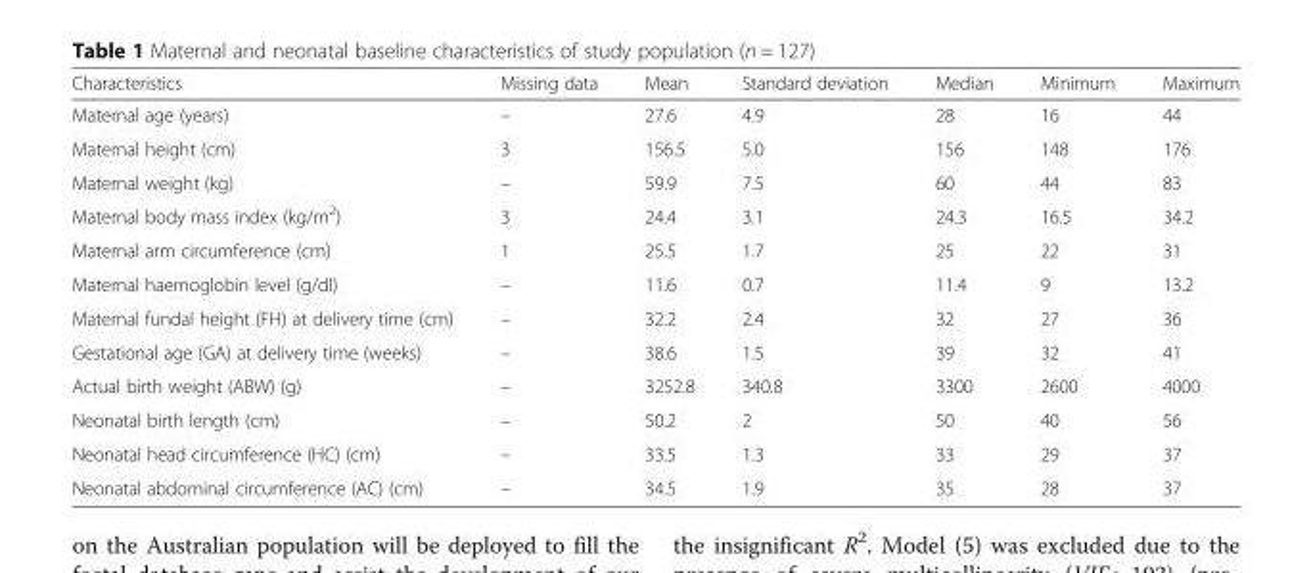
<table><thead><tr><td>Characteristics</td><td>Missing data</td><td>Mean</td><td>Standard deviation</td><td>Median</td><td>Minimum</td><td>Maximum</td></tr></thead><tbody><tr><td>Maternal age (years)</td><td>–</td><td>27.6</td><td>4.9</td><td>28</td><td>16</td><td>44</td></tr><tr><td>Maternal height (cm)</td><td>3</td><td>156.5</td><td>5.0</td><td>156</td><td>148</td><td>176</td></tr><tr><td>Maternal weight (kg)</td><td>–</td><td>59.9</td><td>7.5</td><td>60</td><td>44</td><td>83</td></tr><tr><td>Maternal body mass index (kg/m<sup>2</sup>)</td><td>3</td><td>24.4</td><td>3.1</td><td>24.3</td><td>16.5</td><td>34.2</td></tr><tr><td>Maternal arm circumference (cm)</td><td>1</td><td>25.5</td><td>1.7</td><td>25</td><td>22</td><td>31</td></tr><tr><td>Maternal haemoglobin level (g/dl)</td><td>–</td><td>11.6</td><td>0.7</td><td>11.4</td><td>9</td><td>13.2</td></tr><tr><td>Maternal fundal height (FH) at delivery time (cm)</td><td>–</td><td>32.2</td><td>2.4</td><td>32</td><td>27</td><td>36</td></tr><tr><td>Gestational age (GA) at delivery time (weeks)</td><td>–</td><td>38.6</td><td>1.5</td><td>39</td><td>32</td><td>41</td></tr><tr><td>Actual birth weight (ABW) (g)</td><td>–</td><td>3252.8</td><td>340.8</td><td>3300</td><td>2600</td><td>4000</td></tr><tr><td>Neonatal birth length (cm)</td><td>–</td><td>50.2</td><td>2</td><td>50</td><td>40</td><td>56</td></tr><tr><td>Neonatal head circumference (HC) (cm)</td><td>–</td><td>33.5</td><td>1.3</td><td>33</td><td>29</td><td>37</td></tr><tr><td>Neonatal abdominal circumference (AC) (cm)</td><td>–</td><td>34.5</td><td>1.9</td><td>35</td><td>28</td><td>37</td></tr></tbody></table>